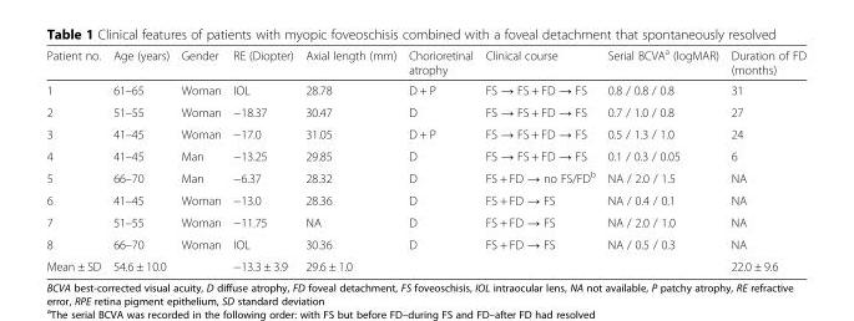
<table><thead><tr><td>Patient no.</td><td>Age (years)</td><td>Gender</td><td>RE (Diopter)</td><td>Axial length (mm)</td><td>Chorioretinal atrophy</td><td>Clinical course</td><td>Serial BCVA<sup>a</sup> (logMAR)</td><td>Duration of FD (months)</td></tr></thead><tbody><tr><td>1</td><td>61–65</td><td>Woman</td><td>IOL</td><td>28.78</td><td>D + P</td><td>FS → FS + FD → FS</td><td>0.8 / 0.8 / 0.8</td><td>31</td></tr><tr><td>2</td><td>51–55</td><td>Woman</td><td>−18.37</td><td>30.47</td><td>D</td><td>FS → FS + FD → FS</td><td>0.7 / 1.0 / 0.8</td><td>27</td></tr><tr><td>3</td><td>41–45</td><td>Woman</td><td>−17.0</td><td>31.05</td><td>D + P</td><td>FS → FS + FD → FS</td><td>0.5 / 1.3 / 1.0</td><td>24</td></tr><tr><td>4</td><td>41–45</td><td>Man</td><td>−13.25</td><td>29.85</td><td>D</td><td>FS → FS + FD → FS</td><td>0.1 / 0.3 / 0.05</td><td>6</td></tr><tr><td>5</td><td>66–70</td><td>Man</td><td>−6.37</td><td>28.32</td><td>D</td><td>FS + FD → no FS/FD<sup>b</sup></td><td>NA / 2.0 / 1.5</td><td>NA</td></tr><tr><td>6</td><td>41–45</td><td>Woman</td><td>−13.0</td><td>28.36</td><td>D</td><td>FS + FD → FS</td><td>NA / 0.4 / 0.1</td><td>NA</td></tr><tr><td>7</td><td>51–55</td><td>Woman</td><td>−11.75</td><td>NA</td><td>D</td><td>FS + FD → FS</td><td>NA / 2.0 / 1.0</td><td>NA</td></tr><tr><td>8</td><td>66–70</td><td>Woman</td><td>IOL</td><td>30.36</td><td>D</td><td>FS + FD → FS</td><td>NA / 0.5 / 0.3</td><td>NA</td></tr><tr><td>Mean ± SD</td><td>54.6 ± 10.0</td><td></td><td>−13.3 ± 3.9</td><td>29.6 ± 1.0</td><td></td><td></td><td></td><td>22.0 ± 9.6</td></tr></tbody></table>